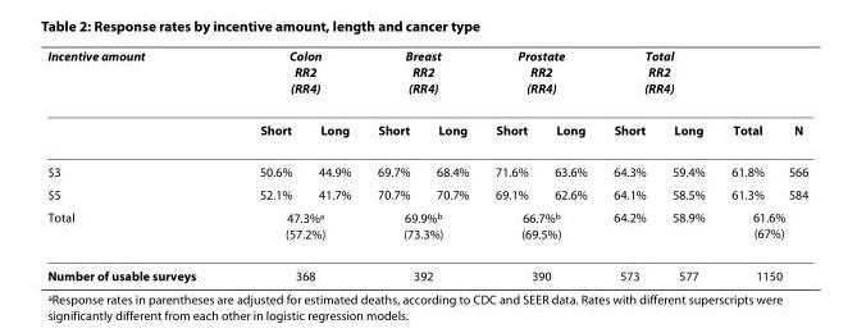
<table><thead><tr><td rowspan="2">Incentive amount</td><td colspan="2">Colon RR2 (RR4)</td><td colspan="2">Breast RR2 (RR4)</td><td colspan="2">Prostate RR2 (RR4)</td><td colspan="2">Total RR2 (RR4)</td><td rowspan="2">Total</td><td rowspan="2">N</td></tr><tr><td>Short</td><td>Long</td><td>Short</td><td>Long</td><td>Short</td><td>Long</td><td>Short</td><td>Long</td></tr></thead><tbody><tr><td>$3</td><td>50.6%</td><td>44.9%</td><td>69.7%</td><td>68.4%</td><td>71.6%</td><td>63.6%</td><td>64.3%</td><td>59.4%</td><td>61.8%</td><td>566</td></tr><tr><td>$5</td><td>52.1%</td><td>41.7%</td><td>70.7%</td><td>70.7%</td><td>69.1%</td><td>62.6%</td><td>64.1%</td><td>58.5%</td><td>61.3%</td><td>584</td></tr><tr><td>Total</td><td colspan="2">47.3%<sup>a</sup> (57.2%)</td><td colspan="2">69.9%<sup>b</sup> (73.3%)</td><td colspan="2">66.7%<sup>b</sup> (69.5%)</td><td>64.2%</td><td>58.9%</td><td colspan="2">61.6% (67%)</td></tr><tr><td>Number of usable surveys</td><td colspan="2">368</td><td colspan="2">392</td><td colspan="2">390</td><td>573</td><td>577</td><td colspan="2">1150</td></tr></tbody></table>